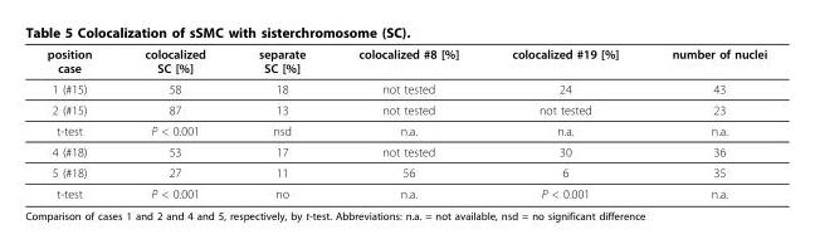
<table><thead><tr><td>position case</td><td>colocalized SC [%]</td><td>separate SC [%]</td><td>colocalized #8 [%]</td><td>colocalized #19 [%]</td><td>number of nuclei</td></tr></thead><tbody><tr><td>1 (#15)</td><td>58</td><td>18</td><td>not tested</td><td>24</td><td>43</td></tr><tr><td>2 (#15)</td><td>87</td><td>13</td><td>not tested</td><td>not tested</td><td>23</td></tr><tr><td>t-test</td><td>P &lt; 0.001</td><td>nsd</td><td>n.a.</td><td>n.a.</td><td>n.a.</td></tr><tr><td>4 (#18)</td><td>53</td><td>17</td><td>not tested</td><td>30</td><td>36</td></tr><tr><td>5 (#18)</td><td>27</td><td>11</td><td>56</td><td>6</td><td>35</td></tr><tr><td>t-test</td><td>P &lt; 0.001</td><td>no</td><td>n.a.</td><td>P &lt; 0.001</td><td>n.a.</td></tr></tbody></table>